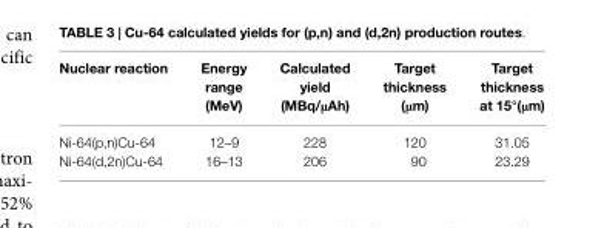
<table><thead><tr><td>Nuclear reaction</td><td>Energy range (MeV)</td><td>Calculated yield (MBq/μAh)</td><td>Target thickness (μm)</td><td>Target thickness at 15°(μm)</td></tr></thead><tbody><tr><td>Ni-64(p,n)Cu-64</td><td>12–9</td><td>228</td><td>120</td><td>31.05</td></tr><tr><td>Ni-64(d,2n)Cu-64</td><td>16–13</td><td>206</td><td>90</td><td>23.29</td></tr></tbody></table>